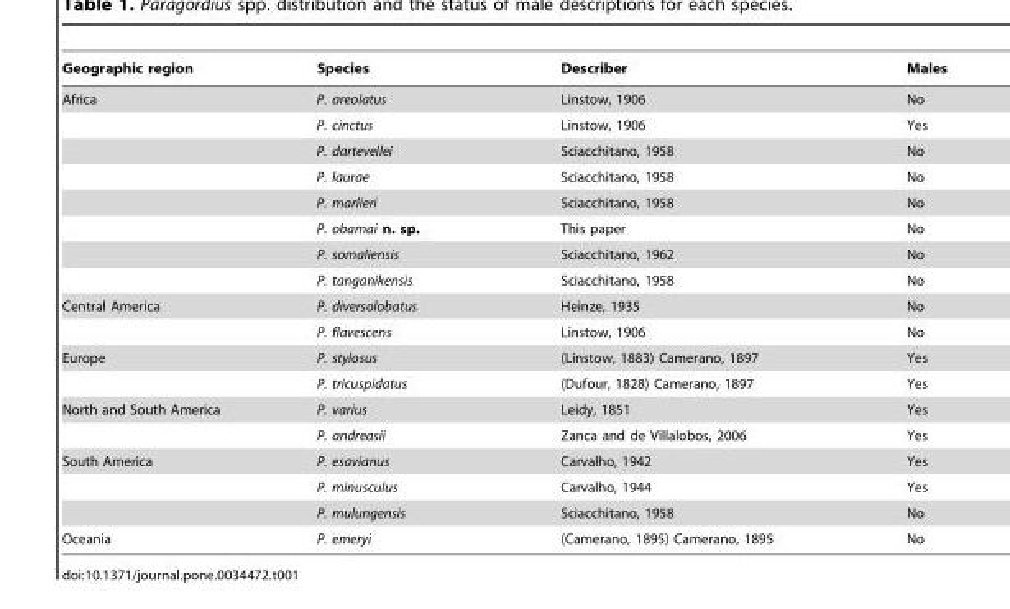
<table><thead><tr><td>Geographic region</td><td>Species</td><td>Describer</td><td>Males</td></tr></thead><tbody><tr><td rowspan="8">Africa</td><td>P. areolatus</td><td>Linstow, 1906</td><td>No</td></tr><tr><td>P. cinctus</td><td>Linstow, 1906</td><td>Yes</td></tr><tr><td>P. dartevellei</td><td>Sciacchitano, 1958</td><td>No</td></tr><tr><td>P. laurae</td><td>Sciacchitano, 1958</td><td>No</td></tr><tr><td>P. marlieri</td><td>Sciacchitano, 1958</td><td>No</td></tr><tr><td>P. obamai n. sp.</td><td>This paper</td><td>No</td></tr><tr><td>P. somaliensis</td><td>Sciacchitano, 1962</td><td>No</td></tr><tr><td>P. tanganikensis</td><td>Sciacchitano, 1958</td><td>No</td></tr><tr><td rowspan="2">Central America</td><td>P. diversolobatus</td><td>Heinze, 1935</td><td>No</td></tr><tr><td>P. flavescens</td><td>Linstow, 1906</td><td>No</td></tr><tr><td rowspan="2">Europe</td><td>P. stylosus</td><td>(Linstow, 1883) Camerano, 1897</td><td>Yes</td></tr><tr><td>P. tricuspidatus</td><td>(Dufour, 1828) Camerano, 1897</td><td>Yes</td></tr><tr><td rowspan="2">North and South America</td><td>P. varius</td><td>Leidy, 1851</td><td>Yes</td></tr><tr><td>P. andreasii</td><td>Zanca and de Villalobos, 2006</td><td>Yes</td></tr><tr><td rowspan="3">South America</td><td>P. esavianus</td><td>Carvalho, 1942</td><td>Yes</td></tr><tr><td>P. minusculus</td><td>Carvalho, 1944</td><td>Yes</td></tr><tr><td>P. mulungensis</td><td>Sciacchitano, 1958</td><td>No</td></tr><tr><td>Oceania</td><td>P. emeryi</td><td>(Camerano, 1895) Camerano, 1895</td><td>No</td></tr></tbody></table>